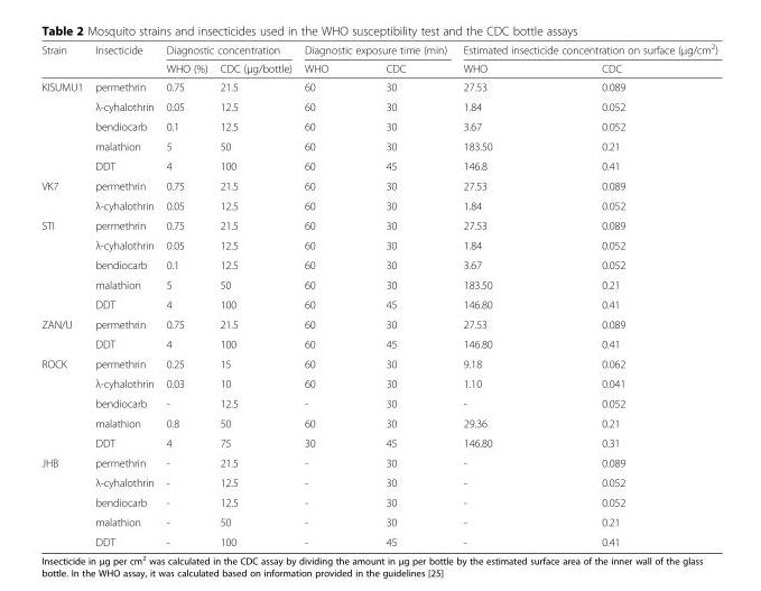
<table><thead><tr><td rowspan="2">Strain</td><td rowspan="2">Insecticide</td><td colspan="2">Diagnostic concentration</td><td colspan="2">Diagnostic exposure time (min)</td><td colspan="2">Estimated insecticide concentration on surface (μg/cm<sup>2</sup>)</td></tr><tr><td>WHO (%)</td><td>CDC (μg/bottle)</td><td>WHO</td><td>CDC</td><td>WHO</td><td>CDC</td></tr></thead><tbody><tr><td rowspan="5">KISUMU1</td><td>permethrin</td><td>0.75</td><td>21.5</td><td>60</td><td>30</td><td>27.53</td><td>0.089</td></tr><tr><td>λ-cyhalothrin</td><td>0.05</td><td>12.5</td><td>60</td><td>30</td><td>1.84</td><td>0.052</td></tr><tr><td>bendiocarb</td><td>0.1</td><td>12.5</td><td>60</td><td>30</td><td>3.67</td><td>0.052</td></tr><tr><td>malathion</td><td>5</td><td>50</td><td>60</td><td>30</td><td>183.50</td><td>0.21</td></tr><tr><td>DDT</td><td>4</td><td>100</td><td>60</td><td>45</td><td>146.8</td><td>0.41</td></tr><tr><td rowspan="2">VK7</td><td>permethrin</td><td>0.75</td><td>21.5</td><td>60</td><td>30</td><td>27.53</td><td>0.089</td></tr><tr><td>λ-cyhalothrin</td><td>0.05</td><td>12.5</td><td>60</td><td>30</td><td>1.84</td><td>0.052</td></tr><tr><td rowspan="5">STI</td><td>permethrin</td><td>0.75</td><td>21.5</td><td>60</td><td>30</td><td>27.53</td><td>0.089</td></tr><tr><td>λ-cyhalothrin</td><td>0.05</td><td>12.5</td><td>60</td><td>30</td><td>1.84</td><td>0.052</td></tr><tr><td>bendiocarb</td><td>0.1</td><td>12.5</td><td>60</td><td>30</td><td>3.67</td><td>0.052</td></tr><tr><td>malathion</td><td>5</td><td>50</td><td>60</td><td>30</td><td>183.50</td><td>0.21</td></tr><tr><td>DDT</td><td>4</td><td>100</td><td>60</td><td>45</td><td>146.80</td><td>0.41</td></tr><tr><td rowspan="2">ZAN/U</td><td>permethrin</td><td>0.75</td><td>21.5</td><td>60</td><td>30</td><td>27.53</td><td>0.089</td></tr><tr><td>DDT</td><td>4</td><td>100</td><td>60</td><td>45</td><td>146.80</td><td>0.41</td></tr><tr><td rowspan="5">ROCK</td><td>permethrin</td><td>0.25</td><td>15</td><td>60</td><td>30</td><td>9.18</td><td>0.062</td></tr><tr><td>λ-cyhalothrin</td><td>0.03</td><td>10</td><td>60</td><td>30</td><td>1.10</td><td>0.041</td></tr><tr><td>bendiocarb</td><td>-</td><td>12.5</td><td>-</td><td>30</td><td>-</td><td>0.052</td></tr><tr><td>malathion</td><td>0.8</td><td>50</td><td>60</td><td>30</td><td>29.36</td><td>0.21</td></tr><tr><td>DDT</td><td>4</td><td>75</td><td>30</td><td>45</td><td>146.80</td><td>0.31</td></tr><tr><td rowspan="5">JHB</td><td>permethrin</td><td>-</td><td>21.5</td><td>-</td><td>30</td><td>-</td><td>0.089</td></tr><tr><td>λ-cyhalothrin</td><td>-</td><td>12.5</td><td>-</td><td>30</td><td>-</td><td>0.052</td></tr><tr><td>bendiocarb</td><td>-</td><td>12.5</td><td>-</td><td>30</td><td>-</td><td>0.052</td></tr><tr><td>malathion</td><td>-</td><td>50</td><td>-</td><td>30</td><td>-</td><td>0.21</td></tr><tr><td>DDT</td><td>-</td><td>100</td><td>-</td><td>45</td><td>-</td><td>0.41</td></tr></tbody></table>